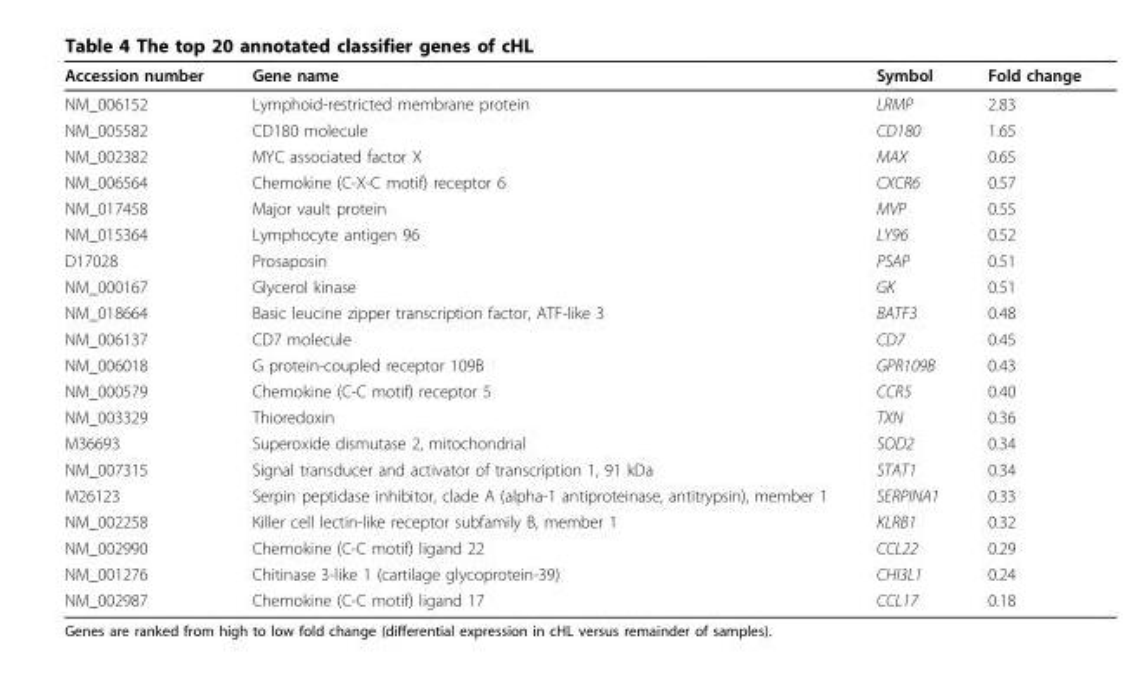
<table><thead><tr><td>Accession number</td><td>Gene name</td><td>Symbol</td><td>Fold change</td></tr></thead><tbody><tr><td>NM_006152</td><td>Lymphoid-restricted membrane protein</td><td>LRMP</td><td>2.83</td></tr><tr><td>NM_005582</td><td>CD180 molecule</td><td>CD180</td><td>1.65</td></tr><tr><td>NM_002382</td><td>MYC associated factor X</td><td>MAX</td><td>0.65</td></tr><tr><td>NM_006564</td><td>Chemokine (C-X-C motif) receptor 6</td><td>CXCR6</td><td>0.57</td></tr><tr><td>NM_017458</td><td>Major vault protein</td><td>MVP</td><td>0.55</td></tr><tr><td>NM_015364</td><td>Lymphocyte antigen 96</td><td>LY96</td><td>0.52</td></tr><tr><td>D17028</td><td>Prosaposin</td><td>PSAP</td><td>0.51</td></tr><tr><td>NM_000167</td><td>Glycerol kinase</td><td>GK</td><td>0.51</td></tr><tr><td>NM_018664</td><td>Basic leucine zipper transcription factor, ATF-like 3</td><td>BATF3</td><td>0.48</td></tr><tr><td>NM_006137</td><td>CD7 molecule</td><td>CD7</td><td>0.45</td></tr><tr><td>NM_006018</td><td>G protein-coupled receptor 109B</td><td>GPR109B</td><td>0.43</td></tr><tr><td>NM_000579</td><td>Chemokine (C-C motif) receptor 5</td><td>CCR5</td><td>0.40</td></tr><tr><td>NM_003329</td><td>Thioredoxin</td><td>TXN</td><td>0.36</td></tr><tr><td>M36693</td><td>Superoxide dismutase 2, mitochondrial</td><td>SOD2</td><td>0.34</td></tr><tr><td>NM_007315</td><td>Signal transducer and activator of transcription 1, 91 kDa</td><td>STAT1</td><td>0.34</td></tr><tr><td>M26123</td><td>Serpin peptidase inhibitor, clade A (alpha-1 antiproteinase, antitrypsin), member 1</td><td>SERPINA1</td><td>0.33</td></tr><tr><td>NM_002258</td><td>Killer cell lectin-like receptor subfamily B, member 1</td><td>KLRB1</td><td>0.32</td></tr><tr><td>NM_002990</td><td>Chemokine (C-C motif) ligand 22</td><td>CCL22</td><td>0.29</td></tr><tr><td>NM_001276</td><td>Chitinase 3-like 1 (cartilage glycoprotein-39)</td><td>CHI3L1</td><td>0.24</td></tr><tr><td>NM_002987</td><td>Chemokine (C-C motif) ligand 17</td><td>CCL17</td><td>0.18</td></tr></tbody></table>